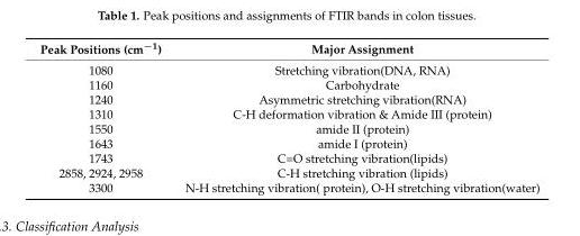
<table><thead><tr><td>Peak Positions (cm<sup>−1</sup>)</td><td>Major Assignment</td></tr></thead><tbody><tr><td>1080</td><td>Stretching vibration(DNA, RNA)</td></tr><tr><td>1160</td><td>Carbohydrate</td></tr><tr><td>1240</td><td>Asymmetric stretching vibration(RNA)</td></tr><tr><td>1310</td><td>C-H deformation vibration &amp; Amide III (protein)</td></tr><tr><td>1550</td><td>amide II (protein)</td></tr><tr><td>1643</td><td>amide I (protein)</td></tr><tr><td>1743</td><td>C=O stretching vibration(lipids)</td></tr><tr><td>2858, 2924, 2958</td><td>C-H stretching vibration (lipids)</td></tr><tr><td>3300</td><td>N-H stretching vibration( protein), O-H stretching vibration(water)</td></tr></tbody></table>